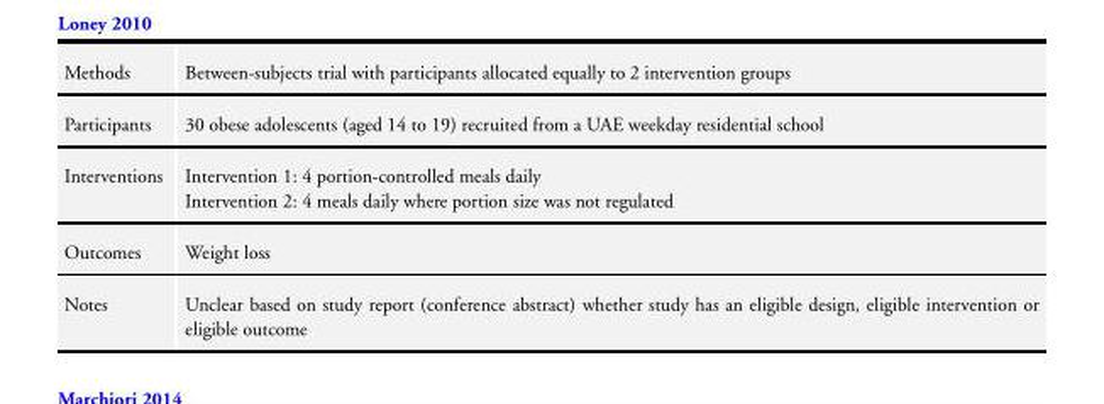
<table><tbody><tr><td>Methods</td><td>Between-subjects trial with participants allocated equally to 2 intervention groups</td></tr><tr><td>Participants</td><td>30 obese adolescents (aged 14 to 19) recruited from a UAE weekday residential school</td></tr><tr><td>Interventions</td><td>Intervention 1: 4 portion-controlled meals daily Intervention 2: 4 meals daily where portion size was not regulated</td></tr><tr><td>Outcomes</td><td>Weight loss</td></tr><tr><td>Notes</td><td>Unclear based on study report (conference abstract) whether study has an eligible design, eligible intervention or eligible outcome</td></tr></tbody></table>